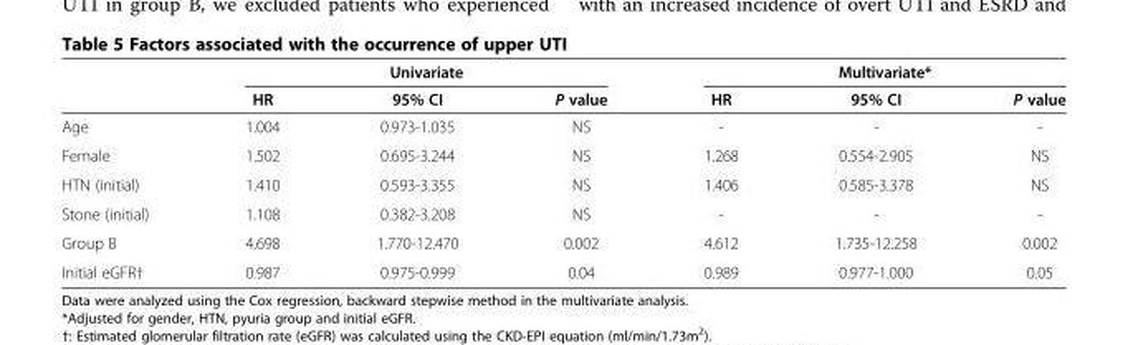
<table><thead><tr><td rowspan="2"></td><td colspan="3">Univariate</td><td colspan="3">Multivariate*</td></tr><tr><td>HR</td><td>95% CI</td><td>P value</td><td>HR</td><td>95% CI</td><td>P value</td></tr></thead><tbody><tr><td>Age</td><td>1.004</td><td>0.973-1.035</td><td>NS</td><td>-</td><td>-</td><td>-</td></tr><tr><td>Female</td><td>1.502</td><td>0.695-3.244</td><td>NS</td><td>1.268</td><td>0.554-2.905</td><td>NS</td></tr><tr><td>HTN (initial)</td><td>1.410</td><td>0.593-3.355</td><td>NS</td><td>1.406</td><td>0.585-3.378</td><td>NS</td></tr><tr><td>Stone (initial)</td><td>1.108</td><td>0.382-3.208</td><td>NS</td><td>-</td><td>-</td><td>-</td></tr><tr><td>Group B</td><td>4.698</td><td>1.770-12.470</td><td>0.002</td><td>4.612</td><td>1.735-12.258</td><td>0.002</td></tr><tr><td>Initial eGFR†</td><td>0.987</td><td>0.975-0.999</td><td>0.04</td><td>0.989</td><td>0.977-1.000</td><td>0.05</td></tr></tbody></table>